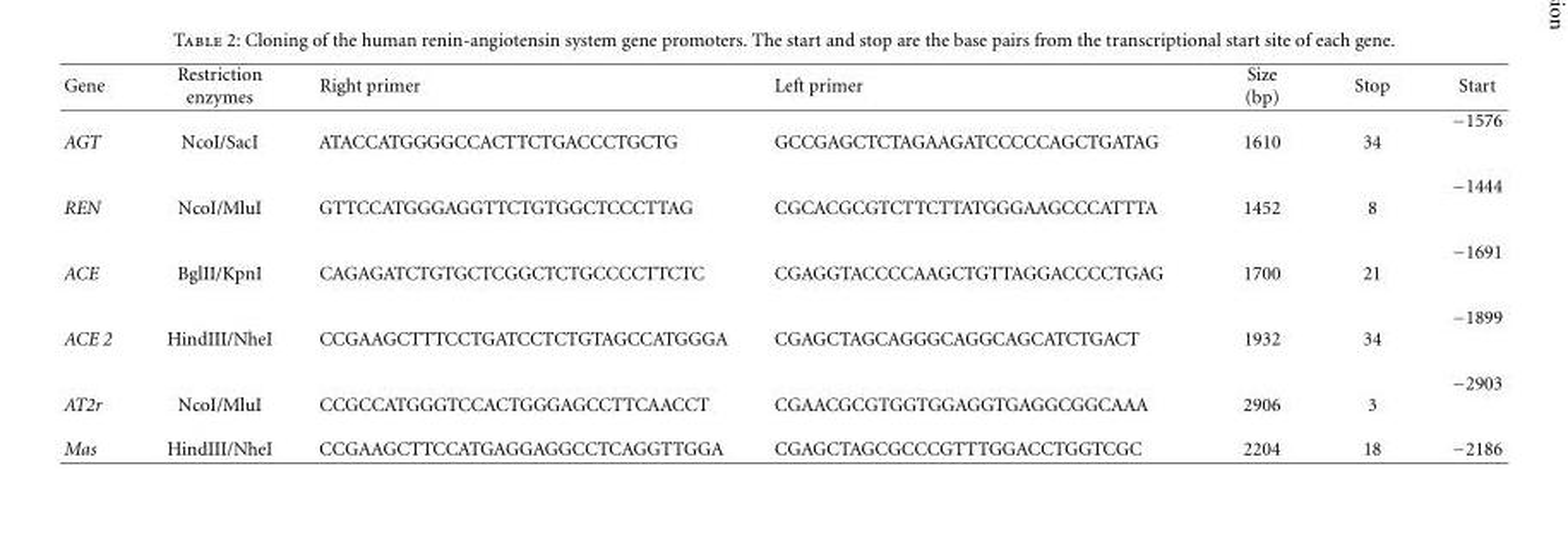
<table><thead><tr><td>Gene</td><td>Restriction enzymes</td><td>Right primer</td><td>Left primer</td><td>Size (bp)</td><td>Stop</td><td>Start</td></tr></thead><tbody><tr><td>AGT</td><td>NcoI/SacI</td><td>ATACCATGGGGCCACTTCTGACCCTGCTG</td><td>GCCGAGCTCTAGAAGATCCCCCAGCTGATAG</td><td>1610</td><td>34</td><td>−1576</td></tr><tr><td>REN</td><td>NcoI/MluI</td><td>GTTCCATGGGAGGTTCTGTGGCTCCCTTAG</td><td>CGCACGCGTCTTCTTATGGGAAGCCCATTTA</td><td>1452</td><td>8</td><td>−1444</td></tr><tr><td>ACE</td><td>BglII/KpnI</td><td>CAGAGATCTGTGCTCGGCTCTGCCCCTTCTC</td><td>CGAGGTACCCCAAGCTGTTAGGACCCCTGAG</td><td>1700</td><td>21</td><td>−1691</td></tr><tr><td>ACE 2</td><td>HindIII/NheI</td><td>CCGAAGCTTTCCTGATCCTCTGTAGCCATGGGA</td><td>CGAGCTAGCAGGGCAGGCAGCATCTGACT</td><td>1932</td><td>34</td><td>−1899</td></tr><tr><td>AT2r</td><td>NcoI/MluI</td><td>CCGCCATGGGTCCACTGGGAGCCTTCAACCT</td><td>CGAACGCGTGGTGGAGGTGAGGCGGCAAA</td><td>2906</td><td>3</td><td>−2903</td></tr><tr><td>Mas</td><td>HindIII/NheI</td><td>CCGAAGCTTCCATGAGGAGGCCTCAGGTTGGA</td><td>CGAGCTAGCGCCCGTTTGGACCTGGTCGC</td><td>2204</td><td>18</td><td>−2186</td></tr></tbody></table>